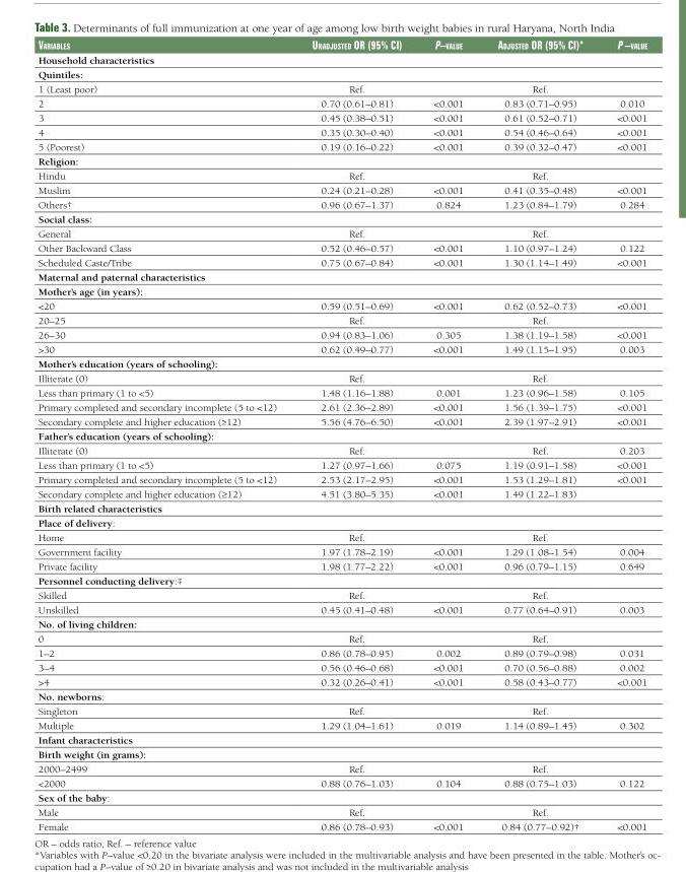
<table><thead><tr><td>Variables</td><td>uNadjusted or (95% ci)</td><td>P–Value</td><td>adjusted or (95% ci)*</td><td>P –Value</td></tr></thead><tbody><tr><td colspan="5">Household characteristics</td></tr><tr><td colspan="5">Quintiles:</td></tr><tr><td>1 (Least poor)</td><td>Ref.</td><td></td><td>Ref.</td><td></td></tr><tr><td>2</td><td>0.70 (0.61–0.81)</td><td>&lt;0.001</td><td>0.83 (0.71–0.95)</td><td>0.010</td></tr><tr><td>3</td><td>0.45 (0.38–0.51)</td><td>&lt;0.001</td><td>0.61 (0.52–0.71)</td><td>&lt;0.001</td></tr><tr><td>4</td><td>0.35 (0.30–0.40)</td><td>&lt;0.001</td><td>0.54 (0.46–0.64)</td><td>&lt;0.001</td></tr><tr><td>5 (Poorest)</td><td>0.19 (0.16–0.22)</td><td>&lt;0.001</td><td>0.39 (0.32–0.47)</td><td>&lt;0.001</td></tr><tr><td colspan="5">Religion:</td></tr><tr><td>Hindu</td><td>Ref.</td><td></td><td>Ref.</td><td></td></tr><tr><td>Muslim</td><td>0.24 (0.21–0.28)</td><td>&lt;0.001</td><td>0.41 (0.35–0.48)</td><td>&lt;0.001</td></tr><tr><td>Others†</td><td>0.96 (0.67–1.37)</td><td>0.824</td><td>1.23 (0.84–1.79)</td><td>0.284</td></tr><tr><td colspan="5">Social class:</td></tr><tr><td>General</td><td>Ref.</td><td></td><td>Ref.</td><td></td></tr><tr><td>Other Backward Class</td><td>0.52 (0.46–0.57)</td><td>&lt;0.001</td><td>1.10 (0.97–1.24)</td><td>0.122</td></tr><tr><td>Scheduled Caste/Tribe</td><td>0.75 (0.67–0.84)</td><td>&lt;0.001</td><td>1.30 (1.14–1.49)</td><td>&lt;0.001</td></tr><tr><td colspan="5">Maternal and paternal characteristics</td></tr><tr><td colspan="5">Mother’s age (in years):</td></tr><tr><td>&lt;20</td><td>0.59 (0.51–0.69)</td><td>&lt;0.001</td><td>0.62 (0.52–0.73)</td><td>&lt;0.001</td></tr><tr><td>20–25</td><td>Ref.</td><td></td><td>Ref.</td><td></td></tr><tr><td>26–30</td><td>0.94 (0.83–1.06)</td><td>0.305</td><td>1.38 (1.19–1.58)</td><td>&lt;0.001</td></tr><tr><td>&gt;30</td><td>0.62 (0.49–0.77)</td><td>&lt;0.001</td><td>1.49 (1.15–1.95)</td><td>0.003</td></tr><tr><td colspan="5">Mother’s education (years of schooling):</td></tr><tr><td>Illiterate (0)</td><td>Ref.</td><td></td><td>Ref.</td><td></td></tr><tr><td>Less than primary (1 to &lt;5)</td><td>1.48 (1.16–1.88)</td><td>0.001</td><td>1.23 (0.96–1.58)</td><td>0.105</td></tr><tr><td>Primary completed and secondary incomplete (5 to &lt;12)</td><td>2.61 (2.36–2.89)</td><td>&lt;0.001</td><td>1.56 (1.39–1.75)</td><td>&lt;0.001</td></tr><tr><td>Secondary complete and higher education (≥12)</td><td>5.56 (4.76–6.50)</td><td>&lt;0.001</td><td>2.39 (1.97–2.91)</td><td>&lt;0.001</td></tr><tr><td colspan="5">Father’s education (years of schooling):</td></tr><tr><td>Illiterate (0)</td><td>Ref.</td><td></td><td>Ref.</td><td>0.203</td></tr><tr><td>Less than primary (1 to &lt;5)</td><td>1.27 (0.97–1.66)</td><td>0.075</td><td>1.19 (0.91–1.58)</td><td>&lt;0.001</td></tr><tr><td>Primary completed and secondary incomplete (5 to &lt;12)</td><td>2.53 (2.17–2.95)</td><td>&lt;0.001</td><td>1.53 (1.29–1.81)</td><td>&lt;0.001</td></tr><tr><td>Secondary complete and higher education (≥12)</td><td>4.51 (3.80–5.35)</td><td>&lt;0.001</td><td>1.49 (1.22–1.83)</td><td></td></tr><tr><td colspan="5">Birth related characteristics</td></tr><tr><td colspan="5">Place of delivery:</td></tr><tr><td>Home</td><td>Ref.</td><td></td><td>Ref.</td><td></td></tr><tr><td>Government facility</td><td>1.97 (1.78–2.19)</td><td>&lt;0.001</td><td>1.29 (1.08–1.54)</td><td>0.004</td></tr><tr><td>Private facility</td><td>1.98 (1.77–2.22)</td><td>&lt;0.001</td><td>0.96 (0.79–1.15)</td><td>0.649</td></tr><tr><td colspan="5">Personnel conducting delivery:‡</td></tr><tr><td>Skilled</td><td>Ref.</td><td></td><td>Ref.</td><td></td></tr><tr><td>Unskilled</td><td>0.45 (0.41–0.48)</td><td>&lt;0.001</td><td>0.77 (0.64–0.91)</td><td>0.003</td></tr><tr><td colspan="5">No. of living children:</td></tr><tr><td>0</td><td>Ref.</td><td></td><td>Ref.</td><td></td></tr><tr><td>1–2</td><td>0.86 (0.78–0.95)</td><td>0.002</td><td>0.89 (0.79–0.98)</td><td>0.031</td></tr><tr><td>3–4</td><td>0.56 (0.46–0.68)</td><td>&lt;0.001</td><td>0.70 (0.56–0.88)</td><td>0.002</td></tr><tr><td>&gt;4</td><td>0.32 (0.26–0.41)</td><td>&lt;0.001</td><td>0.58 (0.43–0.77)</td><td>&lt;0.001</td></tr><tr><td colspan="5">No. newborns:</td></tr><tr><td>Singleton</td><td>Ref.</td><td></td><td>Ref.</td><td></td></tr><tr><td>Multiple</td><td>1.29 (1.04–1.61)</td><td>0.019</td><td>1.14 (0.89–1.45)</td><td>0.302</td></tr><tr><td colspan="5">Infant characteristics</td></tr><tr><td colspan="5">Birth weight (in grams):</td></tr><tr><td>2000–2499</td><td>Ref.</td><td></td><td>Ref.</td><td></td></tr><tr><td>&lt;2000</td><td>0.88 (0.76–1.03)</td><td>0.104</td><td>0.88 (0.75–1.03)</td><td>0.122</td></tr><tr><td colspan="5">Sex of the baby:</td></tr><tr><td>Male</td><td>Ref.</td><td></td><td>Ref.</td><td></td></tr><tr><td>Female</td><td>0.86 (0.78–0.93)</td><td>&lt;0.001</td><td>0.84 (0.77–0.92)†</td><td>&lt;0.001</td></tr></tbody></table>